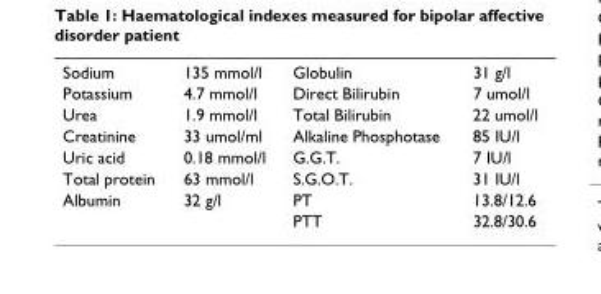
<table><tbody><tr><td>Sodium</td><td>135 mmol/l</td><td>Globulin</td><td>31 g/l</td></tr><tr><td>Potassium</td><td>4.7 mmol/l</td><td>Direct Bilirubin</td><td>7 umol/l</td></tr><tr><td>Urea</td><td>1.9 mmol/l</td><td>Total Bilirubin</td><td>22 umol/l</td></tr><tr><td>Creatinine</td><td>33 umol/ml</td><td>Alkaline Phosphotase</td><td>85 IU/l</td></tr><tr><td>Uric acid</td><td>0.18 mmol/l</td><td>G.G.T.</td><td>7 IU/l</td></tr><tr><td>Total protein</td><td>63 mmol/l</td><td>S.G.O.T.</td><td>31 IU/l</td></tr><tr><td rowspan="2">Albumin</td><td>32 g/l</td><td>PT</td><td>13.8/12.6</td></tr><tr><td></td><td>PTT</td><td>32.8/30.6</td></tr></tbody></table>